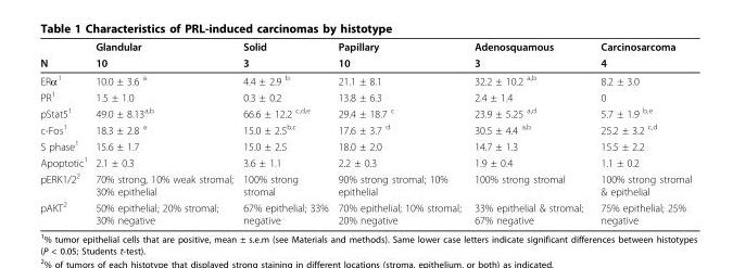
<table><thead><tr><td rowspan="2">N</td><td rowspan="2">Glandular 10</td><td rowspan="2">Solid 3</td><td rowspan="2">Papillary 10</td><td rowspan="2">Adenosquamous 3</td><td rowspan="2">Carcinosarcoma 4</td></tr><tr></tr></thead><tbody><tr><td>ERα<sup>1</sup></td><td>10.0 ± 3.6 <sup>a</sup></td><td>4.4 ± 2.9 <sup>b</sup></td><td>21.1 ± 8.1</td><td>32.2 ± 10.2 <sup>a,b</sup></td><td>8.2 ± 3.0</td></tr><tr><td>PR<sup>1</sup></td><td>1.5 ± 1.0</td><td>0.3 ± 0.2</td><td>13.8 ± 6.3</td><td>2.4 ± 1.4</td><td>0</td></tr><tr><td>pStat5<sup>1</sup></td><td>49.0 ± 8.13<sup>a,b</sup></td><td>66.6 ± 12.2 <sup>c,d,e</sup></td><td>29.4 ± 18.7 <sup>c</sup></td><td>23.9 ± 5.25 <sup>a,d</sup></td><td>5.7 ± 1.9 <sup>b,e</sup></td></tr><tr><td>c-Fos<sup>1</sup></td><td>18.3 ± 2.8 <sup>a</sup></td><td>15.0 ± 2.5<sup>b,c</sup></td><td>17.6 ± 3.7 <sup>d</sup></td><td>30.5 ± 4.4 <sup>a,b</sup></td><td>25.2 ± 3.2 <sup>c,d</sup></td></tr><tr><td>S phase<sup>1</sup></td><td>15.6 ± 1.7</td><td>15.0 ± 2.5</td><td>18.0 ± 2.0</td><td>14.7 ± 1.3</td><td>15.5 ± 2.2</td></tr><tr><td>Apoptotic<sup>1</sup></td><td>2.1 ± 0.3</td><td>3.6 ± 1.1</td><td>2.2 ± 0.3</td><td>1.9 ± 0.4</td><td>1.1 ± 0.2</td></tr><tr><td>pERK1/2<sup>2</sup></td><td>70% strong, 10% weak stromal; 30% epithelial</td><td>100% strong stromal</td><td>90% strong stromal; 10% epithelial</td><td>100% strong stromal</td><td>100% strong stromal &amp; epithelial</td></tr><tr><td>pAKT<sup>2</sup></td><td>50% epithelial; 20% stromal; 30% negative</td><td>67% epithelial; 33% negative</td><td>70% epithelial; 10% stromal; 20% negative</td><td>33% epithelial &amp; stromal; 67% negative</td><td>75% epithelial; 25% negative</td></tr></tbody></table>